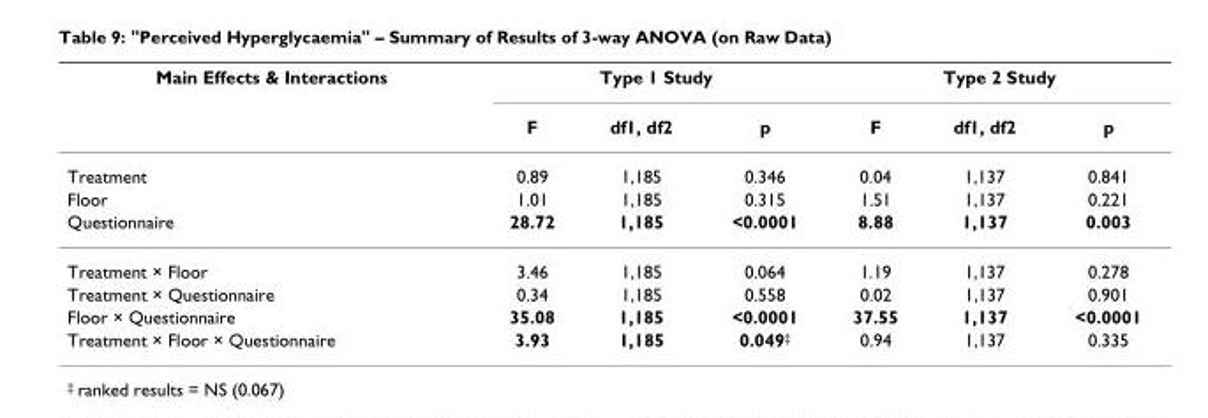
<table><thead><tr><td rowspan="2">Main Effects &amp; Interactions</td><td colspan="3">Type 1 Study</td><td colspan="3">Type 2 Study</td></tr><tr><td>F</td><td>df1, df2</td><td>p</td><td>F</td><td>df1, df2</td><td>p</td></tr></thead><tbody><tr><td>Treatment</td><td>0.89</td><td>1,185</td><td>0.346</td><td>0.04</td><td>1,137</td><td>0.841</td></tr><tr><td>Floor</td><td>1.01</td><td>1,185</td><td>0.315</td><td>1.51</td><td>1,137</td><td>0.221</td></tr><tr><td>Questionnaire</td><td>28.72</td><td>1,185</td><td>&lt;0.0001</td><td>8.88</td><td>1,137</td><td>0.003</td></tr><tr><td>Treatment × Floor</td><td>3.46</td><td>1,185</td><td>0.064</td><td>1.19</td><td>1,137</td><td>0.278</td></tr><tr><td>Treatment × Questionnaire</td><td>0.34</td><td>1,185</td><td>0.558</td><td>0.02</td><td>1,137</td><td>0.901</td></tr><tr><td>Floor × Questionnaire</td><td>35.08</td><td>1,185</td><td>&lt;0.0001</td><td>37.55</td><td>1,137</td><td>&lt;0.0001</td></tr><tr><td>Treatment × Floor × Questionnaire</td><td>3.93</td><td>1,185</td><td>0.049<sup>‡</sup></td><td>0.94</td><td>1,137</td><td>0.335</td></tr></tbody></table>